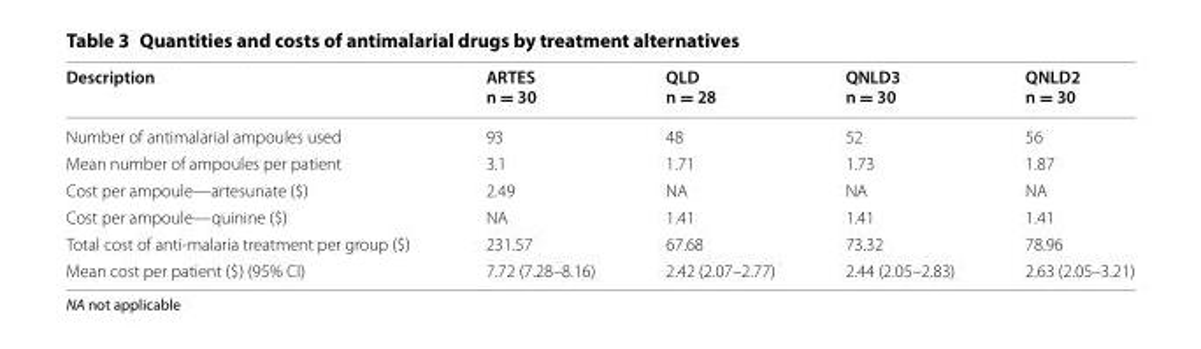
<table><thead><tr><td>Description</td><td>ARTES n = 30</td><td>QLD n = 28</td><td>QNLD3 n = 30</td><td>QNLD2 n = 30</td></tr></thead><tbody><tr><td>Number of antimalarial ampoules used</td><td>93</td><td>48</td><td>52</td><td>56</td></tr><tr><td>Mean number of ampoules per patient</td><td>3.1</td><td>1.71</td><td>1.73</td><td>1.87</td></tr><tr><td>Cost per ampoule—artesunate ($)</td><td>2.49</td><td>NA</td><td>NA</td><td>NA</td></tr><tr><td>Cost per ampoule—quinine ($)</td><td>NA</td><td>1.41</td><td>1.41</td><td>1.41</td></tr><tr><td>Total cost of anti-malaria treatment per group ($)</td><td>231.57</td><td>67.68</td><td>73.32</td><td>78.96</td></tr><tr><td>Mean cost per patient ($) (95% CI)</td><td>7.72 (7.28–8.16)</td><td>2.42 (2.07–2.77)</td><td>2.44 (2.05–2.83)</td><td>2.63 (2.05–3.21)</td></tr></tbody></table>